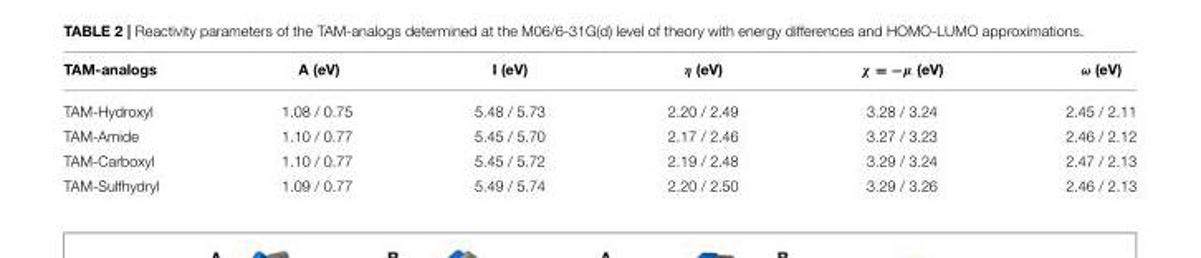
<table><thead><tr><td>TAM-analogs</td><td>A (eV)</td><td>I (eV)</td><td>η (eV)</td><td>χ = −µ (eV)</td><td>ω (eV)</td></tr></thead><tbody><tr><td>TAM-Hydroxyl</td><td>1.08 / 0.75</td><td>5.48 / 5.73</td><td>2.20 / 2.49</td><td>3.28 / 3.24</td><td>2.45 / 2.11</td></tr><tr><td>TAM-Amide</td><td>1.10 / 0.77</td><td>5.45 / 5.70</td><td>2.17 / 2.46</td><td>3.27 / 3.23</td><td>2.46 / 2.12</td></tr><tr><td>TAM-Carboxyl</td><td>1.10 / 0.77</td><td>5.45 / 5.72</td><td>2.19 / 2.48</td><td>3.29 / 3.24</td><td>2.47 / 2.13</td></tr><tr><td>TAM-Sulfhydryl</td><td>1.09 / 0.77</td><td>5.49 / 5.74</td><td>2.20 / 2.50</td><td>3.29 / 3.26</td><td>2.46 / 2.13</td></tr></tbody></table>